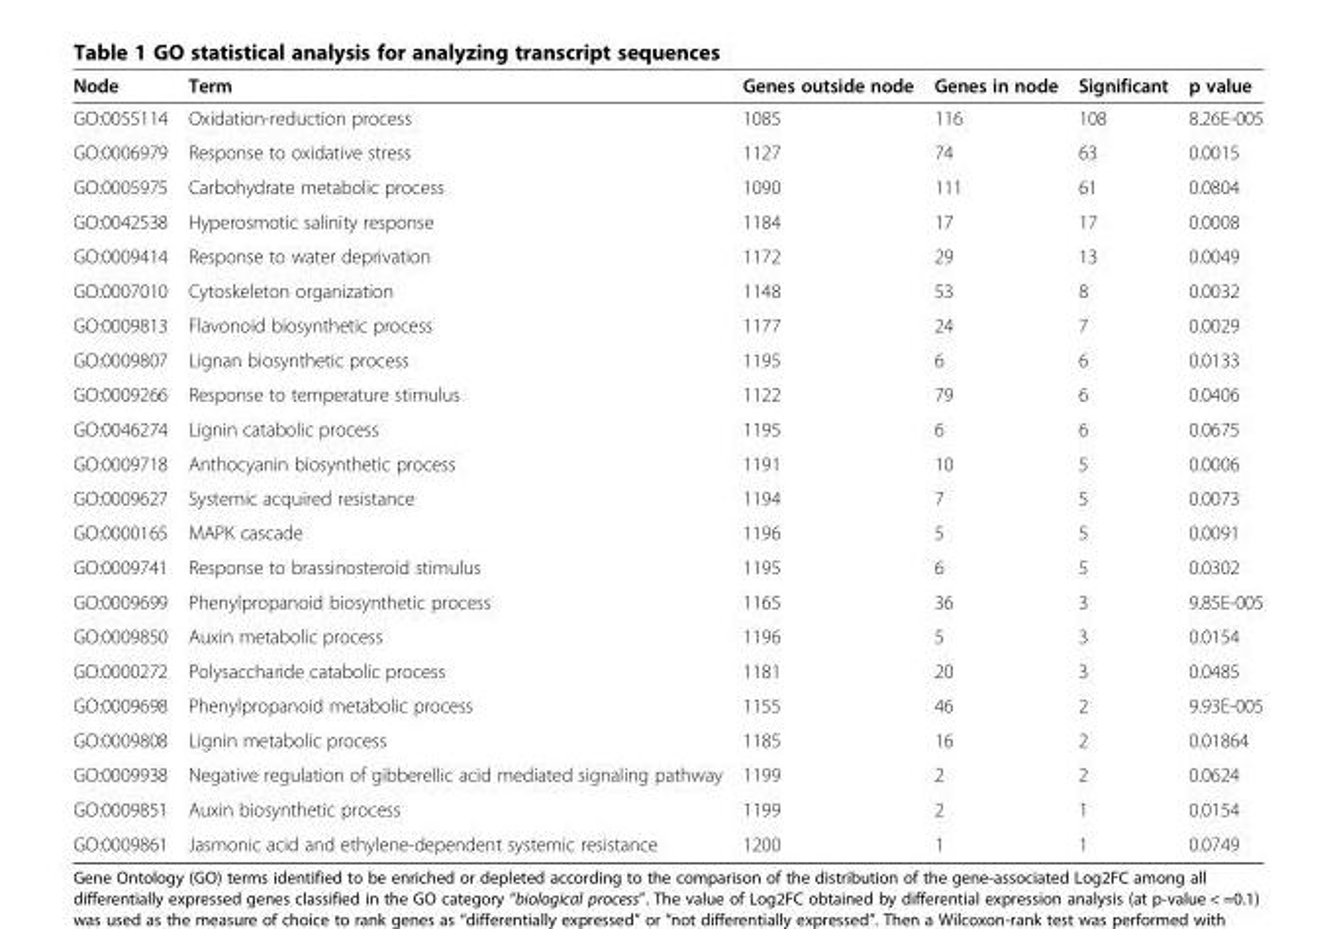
<table><thead><tr><td>Node</td><td>Term</td><td>Genes outside node</td><td>Genes in node</td><td>Significant</td><td>p value</td></tr></thead><tbody><tr><td>GO:0055114</td><td>Oxidation-reduction process</td><td>1085</td><td>116</td><td>108</td><td>8.26E-005</td></tr><tr><td>GO:0006979</td><td>Response to oxidative stress</td><td>1127</td><td>74</td><td>63</td><td>0.0015</td></tr><tr><td>GO:0005975</td><td>Carbohydrate metabolic process</td><td>1090</td><td>111</td><td>61</td><td>0.0804</td></tr><tr><td>GO:0042538</td><td>Hyperosmotic salinity response</td><td>1184</td><td>17</td><td>17</td><td>0.0008</td></tr><tr><td>GO:0009414</td><td>Response to water deprivation</td><td>1172</td><td>29</td><td>13</td><td>0.0049</td></tr><tr><td>GO:0007010</td><td>Cytoskeleton organization</td><td>1148</td><td>53</td><td>8</td><td>0.0032</td></tr><tr><td>GO:0009813</td><td>Flavonoid biosynthetic process</td><td>1177</td><td>24</td><td>7</td><td>0.0029</td></tr><tr><td>GO:0009807</td><td>Lignan biosynthetic process</td><td>1195</td><td>6</td><td>6</td><td>0.0133</td></tr><tr><td>GO:0009266</td><td>Response to temperature stimulus</td><td>1122</td><td>79</td><td>6</td><td>0.0406</td></tr><tr><td>GO:0046274</td><td>Lignin catabolic process</td><td>1195</td><td>6</td><td>6</td><td>0.0675</td></tr><tr><td>GO:0009718</td><td>Anthocyanin biosynthetic process</td><td>1191</td><td>10</td><td>5</td><td>0.0006</td></tr><tr><td>GO:0009627</td><td>Systemic acquired resistance</td><td>1194</td><td>7</td><td>5</td><td>0.0073</td></tr><tr><td>GO:0000165</td><td>MAPK cascade</td><td>1196</td><td>5</td><td>5</td><td>0.0091</td></tr><tr><td>GO:0009741</td><td>Response to brassinosteroid stimulus</td><td>1195</td><td>6</td><td>5</td><td>0.0302</td></tr><tr><td>GO:0009699</td><td>Phenylpropanoid biosynthetic process</td><td>1165</td><td>36</td><td>3</td><td>9.85E-005</td></tr><tr><td>GO:0009850</td><td>Auxin metabolic process</td><td>1196</td><td>5</td><td>3</td><td>0.0154</td></tr><tr><td>GO:0000272</td><td>Polysaccharide catabolic process</td><td>1181</td><td>20</td><td>3</td><td>0.0485</td></tr><tr><td>GO:0009698</td><td>Phenylpropanoid metabolic process</td><td>1155</td><td>46</td><td>2</td><td>9.93E-005</td></tr><tr><td>GO:0009808</td><td>Lignin metabolic process</td><td>1185</td><td>16</td><td>2</td><td>0.01864</td></tr><tr><td>GO:0009938</td><td>Negative regulation of gibberellic acid mediated signaling pathway</td><td>1199</td><td>2</td><td>2</td><td>0.0624</td></tr><tr><td>GO:0009851</td><td>Auxin biosynthetic process</td><td>1199</td><td>2</td><td>1</td><td>0.0154</td></tr><tr><td>GO:0009861</td><td>Jasmonic acid and ethylene-dependent systemic resistance</td><td>1200</td><td>1</td><td>1</td><td>0.0749</td></tr></tbody></table>